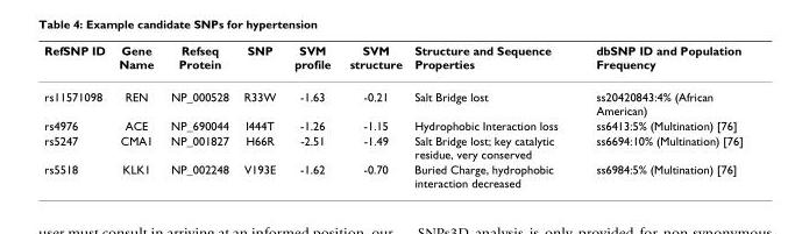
<table><thead><tr><td>RefSNP ID</td><td>Gene Name</td><td>Refseq Protein</td><td>SNP</td><td>SVM profile</td><td>SVM structure</td><td>Structure and Sequence Properties</td><td>dbSNP ID and Population Frequency</td></tr></thead><tbody><tr><td>rs11571098</td><td>REN</td><td>NP_000528</td><td>R33W</td><td>-1.63</td><td>-0.21</td><td>Salt Bridge lost</td><td>ss20420843:4% (African American)</td></tr><tr><td>rs4976</td><td>ACE</td><td>NP_690044</td><td>I444T</td><td>-1.26</td><td>-1.15</td><td>Hydrophobic Interaction loss</td><td>ss6413:5% (Multination) [76]</td></tr><tr><td>rs5247</td><td>CMA1</td><td>NP_001827</td><td>H66R</td><td>-2.51</td><td>-1.49</td><td>Salt Bridge lost; key catalytic residue, very conserved</td><td>ss6694:10% (Multination) [76]</td></tr><tr><td>rs5518</td><td>KLK1</td><td>NP_002248</td><td>V193E</td><td>-1.62</td><td>-0.70</td><td>Buried Charge, hydrophobic interaction decreased</td><td>ss6984:5% (Multination) [76]</td></tr></tbody></table>